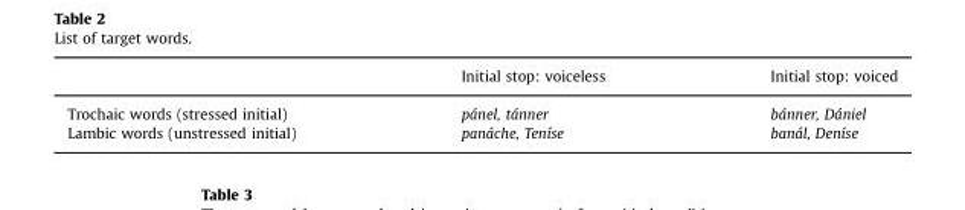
<table><thead><tr><td></td><td>Initial stop: voiceless</td><td>Initial stop: voiced</td></tr></thead><tbody><tr><td>Trochaic words (stressed initial)</td><td>pánel, tánner</td><td>bánner, Dániel</td></tr><tr><td>Lambic words (unstressed initial)</td><td>panáche, Teníse</td><td>banál, Deníse</td></tr></tbody></table>